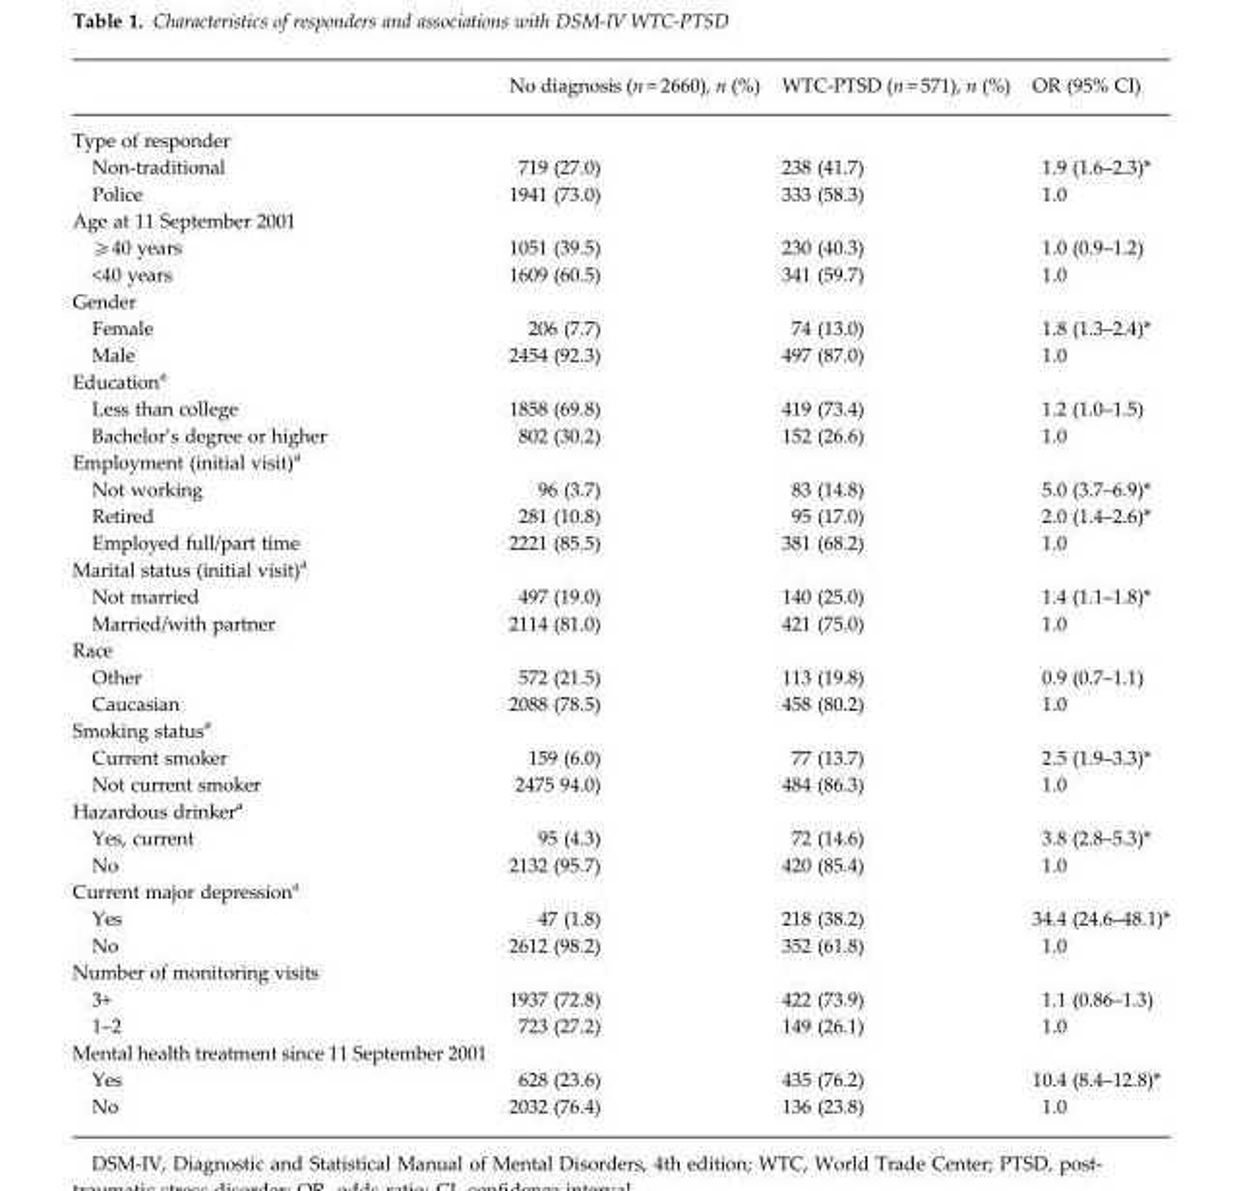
<table><thead><tr><td></td><td>No diagnosis (n = 2660), n (%)</td><td>WTC-PTSD (n = 571), n (%)</td><td>OR (95% CI)</td></tr></thead><tbody><tr><td colspan="4">Type of responder</td></tr><tr><td>Non-traditional</td><td>719 (27.0)</td><td>238 (41.7)</td><td>1.9 (1.6–2.3)*</td></tr><tr><td>Police</td><td>1941 (73.0)</td><td>333 (58.3)</td><td>1.0</td></tr><tr><td colspan="4">Age at 11 September 2001</td></tr><tr><td>⩾40 years</td><td>1051 (39.5)</td><td>230 (40.3)</td><td>1.0 (0.9–1.2)</td></tr><tr><td>&lt;40 years</td><td>1609 (60.5)</td><td>341 (59.7)</td><td>1.0</td></tr><tr><td colspan="4">Gender</td></tr><tr><td>Female</td><td>206 (7.7)</td><td>74 (13.0)</td><td>1.8 (1.3–2.4)*</td></tr><tr><td>Male</td><td>2454 (92.3)</td><td>497 (87.0)</td><td>1.0</td></tr><tr><td colspan="4">Education<sup>a</sup></td></tr><tr><td>Less than college</td><td>1858 (69.8)</td><td>419 (73.4)</td><td>1.2 (1.0–1.5)</td></tr><tr><td>Bachelor’s degree or higher</td><td>802 (30.2)</td><td>152 (26.6)</td><td>1.0</td></tr><tr><td colspan="4">Employment (initial visit)<sup>a</sup></td></tr><tr><td>Not working</td><td>96 (3.7)</td><td>83 (14.8)</td><td>5.0 (3.7–6.9)*</td></tr><tr><td>Retired</td><td>281 (10.8)</td><td>95 (17.0)</td><td>2.0 (1.4–2.6)*</td></tr><tr><td>Employed full/part time</td><td>2221 (85.5)</td><td>381 (68.2)</td><td>1.0</td></tr><tr><td colspan="4">Marital status (initial visit)<sup>a</sup></td></tr><tr><td>Not married</td><td>497 (19.0)</td><td>140 (25.0)</td><td>1.4 (1.1–1.8)*</td></tr><tr><td>Married/with partner</td><td>2114 (81.0)</td><td>421 (75.0)</td><td>1.0</td></tr><tr><td colspan="4">Race</td></tr><tr><td>Other</td><td>572 (21.5)</td><td>113 (19.8)</td><td>0.9 (0.7–1.1)</td></tr><tr><td>Caucasian</td><td>2088 (78.5)</td><td>458 (80.2)</td><td>1.0</td></tr><tr><td colspan="4">Smoking status<sup>a</sup></td></tr><tr><td>Current smoker</td><td>159 (6.0)</td><td>77 (13.7)</td><td>2.5 (1.9–3.3)*</td></tr><tr><td>Not current smoker</td><td>2475 94.0)</td><td>484 (86.3)</td><td>1.0</td></tr><tr><td colspan="4">Hazardous drinker<sup>a</sup></td></tr><tr><td>Yes, current</td><td>95 (4.3)</td><td>72 (14.6)</td><td>3.8 (2.8–5.3)*</td></tr><tr><td>No</td><td>2132 (95.7)</td><td>420 (85.4)</td><td>1.0</td></tr><tr><td colspan="4">Current major depression<sup>a</sup></td></tr><tr><td>Yes</td><td>47 (1.8)</td><td>218 (38.2)</td><td>34.4 (24.6–48.1)*</td></tr><tr><td>No</td><td>2612 (98.2)</td><td>352 (61.8)</td><td>1.0</td></tr><tr><td colspan="4">Number of monitoring visits</td></tr><tr><td>3+</td><td>1937 (72.8)</td><td>422 (73.9)</td><td>1.1 (0.86–1.3)</td></tr><tr><td>1–2</td><td>723 (27.2)</td><td>149 (26.1)</td><td>1.0</td></tr><tr><td colspan="4">Mental health treatment since 11 September 2001</td></tr><tr><td>Yes</td><td>628 (23.6)</td><td>435 (76.2)</td><td>10.4 (8.4–12.8)*</td></tr><tr><td>No</td><td>2032 (76.4)</td><td>136 (23.8)</td><td>1.0</td></tr></tbody></table>